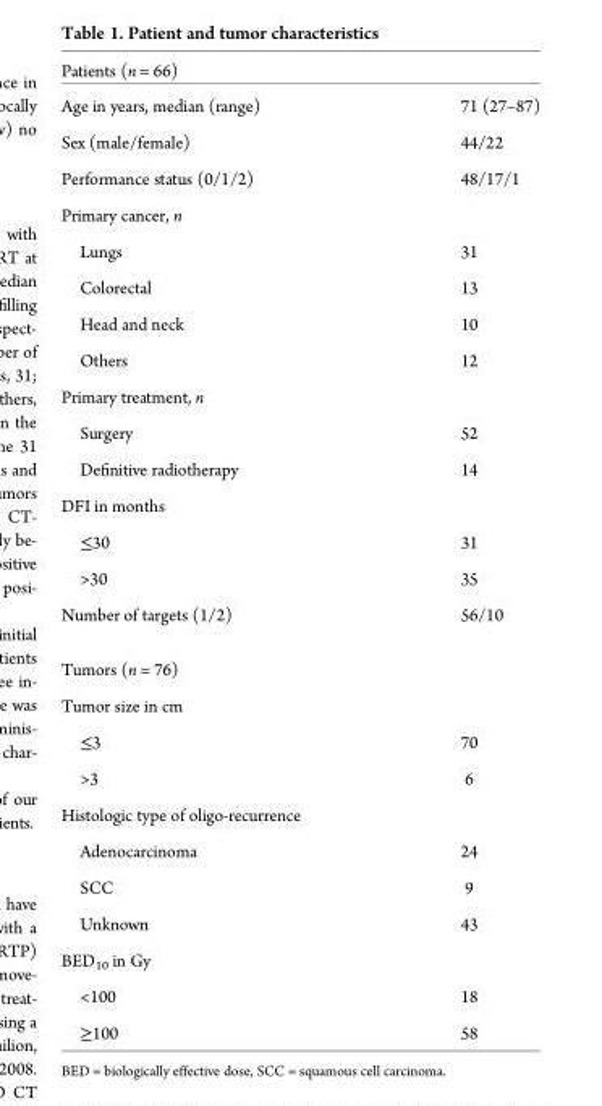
<table><thead><tr><td>Patients (n = 66)</td><td></td></tr></thead><tbody><tr><td>Age in years, median (range)</td><td>71 (27–87)</td></tr><tr><td>Sex (male/female)</td><td>44/22</td></tr><tr><td>Performance status (0/1/2)</td><td>48/17/1</td></tr><tr><td colspan="2">Primary cancer, n</td></tr><tr><td>Lungs</td><td>31</td></tr><tr><td>Colorectal</td><td>13</td></tr><tr><td>Head and neck</td><td>10</td></tr><tr><td>Others</td><td>12</td></tr><tr><td colspan="2">Primary treatment, n</td></tr><tr><td>Surgery</td><td>52</td></tr><tr><td>Definitive radiotherapy</td><td>14</td></tr><tr><td colspan="2">DFI in months</td></tr><tr><td>≤30</td><td>31</td></tr><tr><td>&gt;30</td><td>35</td></tr><tr><td>Number of targets (1/2)</td><td>56/10</td></tr><tr><td colspan="2">Tumors (n = 76)</td></tr><tr><td colspan="2">Tumor size in cm</td></tr><tr><td>≤3</td><td>70</td></tr><tr><td>&gt;3</td><td>6</td></tr><tr><td colspan="2">Histologic type of oligo-recurrence</td></tr><tr><td>Adenocarcinoma</td><td>24</td></tr><tr><td>SCC</td><td>9</td></tr><tr><td>Unknown</td><td>43</td></tr><tr><td colspan="2">BED<sub>10</sub> in Gy</td></tr><tr><td>&lt;100</td><td>18</td></tr><tr><td>≥100</td><td>58</td></tr></tbody></table>